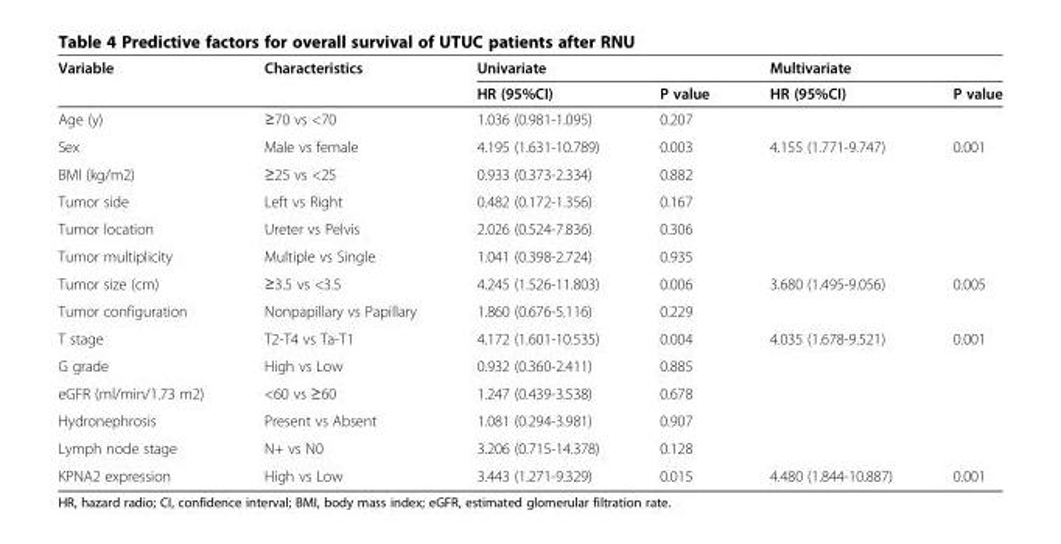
<table><thead><tr><td rowspan="2">Variable</td><td rowspan="2">Characteristics</td><td colspan="2">Univariate</td><td colspan="2">Multivariate</td></tr><tr><td>HR (95%CI)</td><td>P value</td><td>HR (95%CI)</td><td>P value</td></tr></thead><tbody><tr><td>Age (y)</td><td>≥70 vs &lt;70</td><td>1.036 (0.981-1.095)</td><td>0.207</td><td></td><td></td></tr><tr><td>Sex</td><td>Male vs female</td><td>4.195 (1.631-10.789)</td><td>0.003</td><td>4.155 (1.771-9.747)</td><td>0.001</td></tr><tr><td>BMI (kg/m2)</td><td>≥25 vs &lt;25</td><td>0.933 (0.373-2.334)</td><td>0.882</td><td></td><td></td></tr><tr><td>Tumor side</td><td>Left vs Right</td><td>0.482 (0.172-1.356)</td><td>0.167</td><td></td><td></td></tr><tr><td>Tumor location</td><td>Ureter vs Pelvis</td><td>2.026 (0.524-7.836)</td><td>0.306</td><td></td><td></td></tr><tr><td>Tumor multiplicity</td><td>Multiple vs Single</td><td>1.041 (0.398-2.724)</td><td>0.935</td><td></td><td></td></tr><tr><td>Tumor size (cm)</td><td>≥3.5 vs &lt;3.5</td><td>4.245 (1.526-11.803)</td><td>0.006</td><td>3.680 (1.495-9.056)</td><td>0.005</td></tr><tr><td>Tumor configuration</td><td>Nonpapillary vs Papillary</td><td>1.860 (0.676-5.116)</td><td>0.229</td><td></td><td></td></tr><tr><td>T stage</td><td>T2-T4 vs Ta-T1</td><td>4.172 (1.601-10.535)</td><td>0.004</td><td>4.035 (1.678-9.521)</td><td>0.001</td></tr><tr><td>G grade</td><td>High vs Low</td><td>0.932 (0.360-2.411)</td><td>0.885</td><td></td><td></td></tr><tr><td>eGFR (ml/min/1.73 m2)</td><td>&lt;60 vs ≥60</td><td>1.247 (0.439-3.538)</td><td>0.678</td><td></td><td></td></tr><tr><td>Hydronephrosis</td><td>Present vs Absent</td><td>1.081 (0.294-3.981)</td><td>0.907</td><td></td><td></td></tr><tr><td>Lymph node stage</td><td>N+ vs N0</td><td>3.206 (0.715-14.378)</td><td>0.128</td><td></td><td></td></tr><tr><td>KPNA2 expression</td><td>High vs Low</td><td>3.443 (1.271-9.329)</td><td>0.015</td><td>4.480 (1.844-10.887)</td><td>0.001</td></tr></tbody></table>